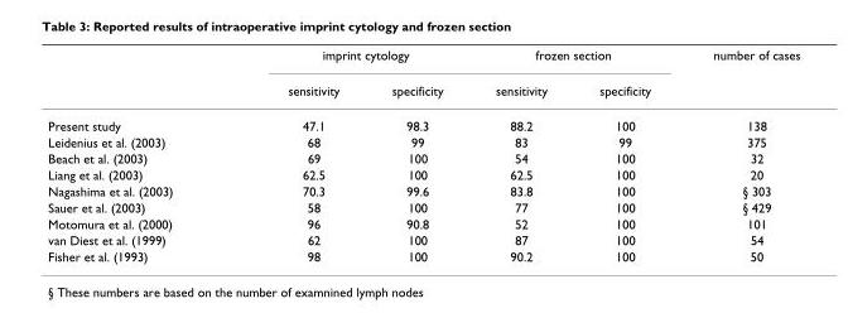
<table><thead><tr><td rowspan="2"></td><td colspan="2">imprint cytology</td><td colspan="2">frozen section</td><td rowspan="2">number of cases</td></tr><tr><td>sensitivity</td><td>specificity</td><td>sensitivity</td><td>specificity</td></tr></thead><tbody><tr><td>Present study</td><td>47.1</td><td>98.3</td><td>88.2</td><td>100</td><td>138</td></tr><tr><td>Leidenius et al. (2003)</td><td>68</td><td>99</td><td>83</td><td>99</td><td>375</td></tr><tr><td>Beach et al. (2003)</td><td>69</td><td>100</td><td>54</td><td>100</td><td>32</td></tr><tr><td>Liang et al. (2003)</td><td>62.5</td><td>100</td><td>62.5</td><td>100</td><td>20</td></tr><tr><td>Nagashima et al. (2003)</td><td>70.3</td><td>99.6</td><td>83.8</td><td>100</td><td>§ 303</td></tr><tr><td>Sauer et al. (2003)</td><td>58</td><td>100</td><td>77</td><td>100</td><td>§ 429</td></tr><tr><td>Motomura et al. (2000)</td><td>96</td><td>90.8</td><td>52</td><td>100</td><td>101</td></tr><tr><td>van Diest et al. (1999)</td><td>62</td><td>100</td><td>87</td><td>100</td><td>54</td></tr><tr><td>Fisher et al. (1993)</td><td>98</td><td>100</td><td>90.2</td><td>100</td><td>50</td></tr></tbody></table>